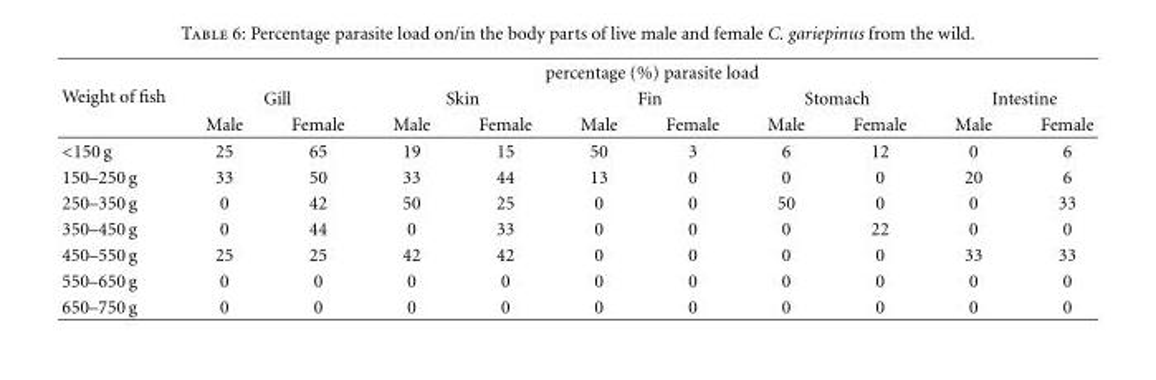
<table><thead><tr><td rowspan="3">Weight of fish</td><td colspan="10">percentage (%) parasite load</td></tr><tr><td colspan="2">Gill</td><td colspan="2">Skin</td><td colspan="2">Fin</td><td colspan="2">Stomach</td><td colspan="2">Intestine</td></tr><tr><td>Male</td><td>Female</td><td>Male</td><td>Female</td><td>Male</td><td>Female</td><td>Male</td><td>Female</td><td>Male</td><td>Female</td></tr></thead><tbody><tr><td>&lt;150 g</td><td>25</td><td>65</td><td>19</td><td>15</td><td>50</td><td>3</td><td>6</td><td>12</td><td>0</td><td>6</td></tr><tr><td>150–250 g</td><td>33</td><td>50</td><td>33</td><td>44</td><td>13</td><td>0</td><td>0</td><td>0</td><td>20</td><td>6</td></tr><tr><td>250–350 g</td><td>0</td><td>42</td><td>50</td><td>25</td><td>0</td><td>0</td><td>50</td><td>0</td><td>0</td><td>33</td></tr><tr><td>350–450 g</td><td>0</td><td>44</td><td>0</td><td>33</td><td>0</td><td>0</td><td>0</td><td>22</td><td>0</td><td>0</td></tr><tr><td>450–550 g</td><td>25</td><td>25</td><td>42</td><td>42</td><td>0</td><td>0</td><td>0</td><td>0</td><td>33</td><td>33</td></tr><tr><td>550–650 g</td><td>0</td><td>0</td><td>0</td><td>0</td><td>0</td><td>0</td><td>0</td><td>0</td><td>0</td><td>0</td></tr><tr><td>650–750 g</td><td>0</td><td>0</td><td>0</td><td>0</td><td>0</td><td>0</td><td>0</td><td>0</td><td>0</td><td>0</td></tr></tbody></table>